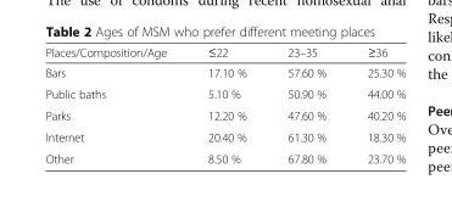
<table><thead><tr><td>Places/Composition/Age</td><td>≤22</td><td>23–35</td><td>≥36</td></tr></thead><tbody><tr><td>Bars</td><td>17.10 %</td><td>57.60 %</td><td>25.30 %</td></tr><tr><td>Public baths</td><td>5.10 %</td><td>50.90 %</td><td>44.00 %</td></tr><tr><td>Parks</td><td>12.20 %</td><td>47.60 %</td><td>40.20 %</td></tr><tr><td>Internet</td><td>20.40 %</td><td>61.30 %</td><td>18.30 %</td></tr><tr><td>Other</td><td>8.50 %</td><td>67.80 %</td><td>23.70 %</td></tr></tbody></table>